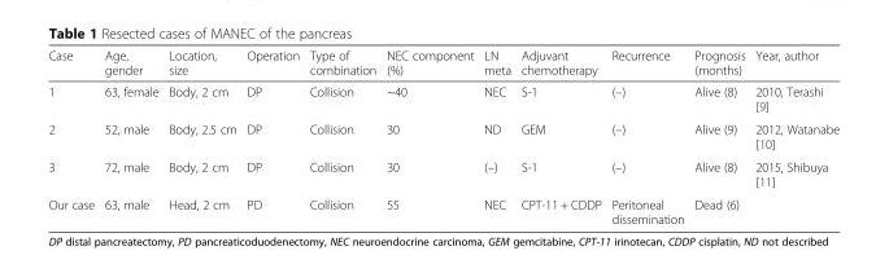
<table><thead><tr><td>Case</td><td>Age, gender</td><td>Location, size</td><td>Operation</td><td>Type of combination</td><td>NEC component (%)</td><td>LN meta</td><td>Adjuvant chemotherapy</td><td>Recurrence</td><td>Prognosis (months)</td><td>Year, author</td></tr></thead><tbody><tr><td>1</td><td>63, female</td><td>Body, 2 cm</td><td>DP</td><td>Collision</td><td>~40</td><td>NEC</td><td>S-1</td><td>(–)</td><td>Alive (8)</td><td>2010, Terashi [9]</td></tr><tr><td>2</td><td>52, male</td><td>Body, 2.5 cm</td><td>DP</td><td>Collision</td><td>30</td><td>ND</td><td>GEM</td><td>(–)</td><td>Alive (9)</td><td>2012, Watanabe [10]</td></tr><tr><td>3</td><td>72, male</td><td>Body, 2 cm</td><td>DP</td><td>Collision</td><td>30</td><td>(–)</td><td>S-1</td><td>(–)</td><td>Alive (8)</td><td>2015, Shibuya [11]</td></tr><tr><td>Our case</td><td>63, male</td><td>Head, 2 cm</td><td>PD</td><td>Collision</td><td>55</td><td>NEC</td><td>CPT-11 + CDDP</td><td>Peritoneal dissemination</td><td>Dead (6)</td><td></td></tr></tbody></table>